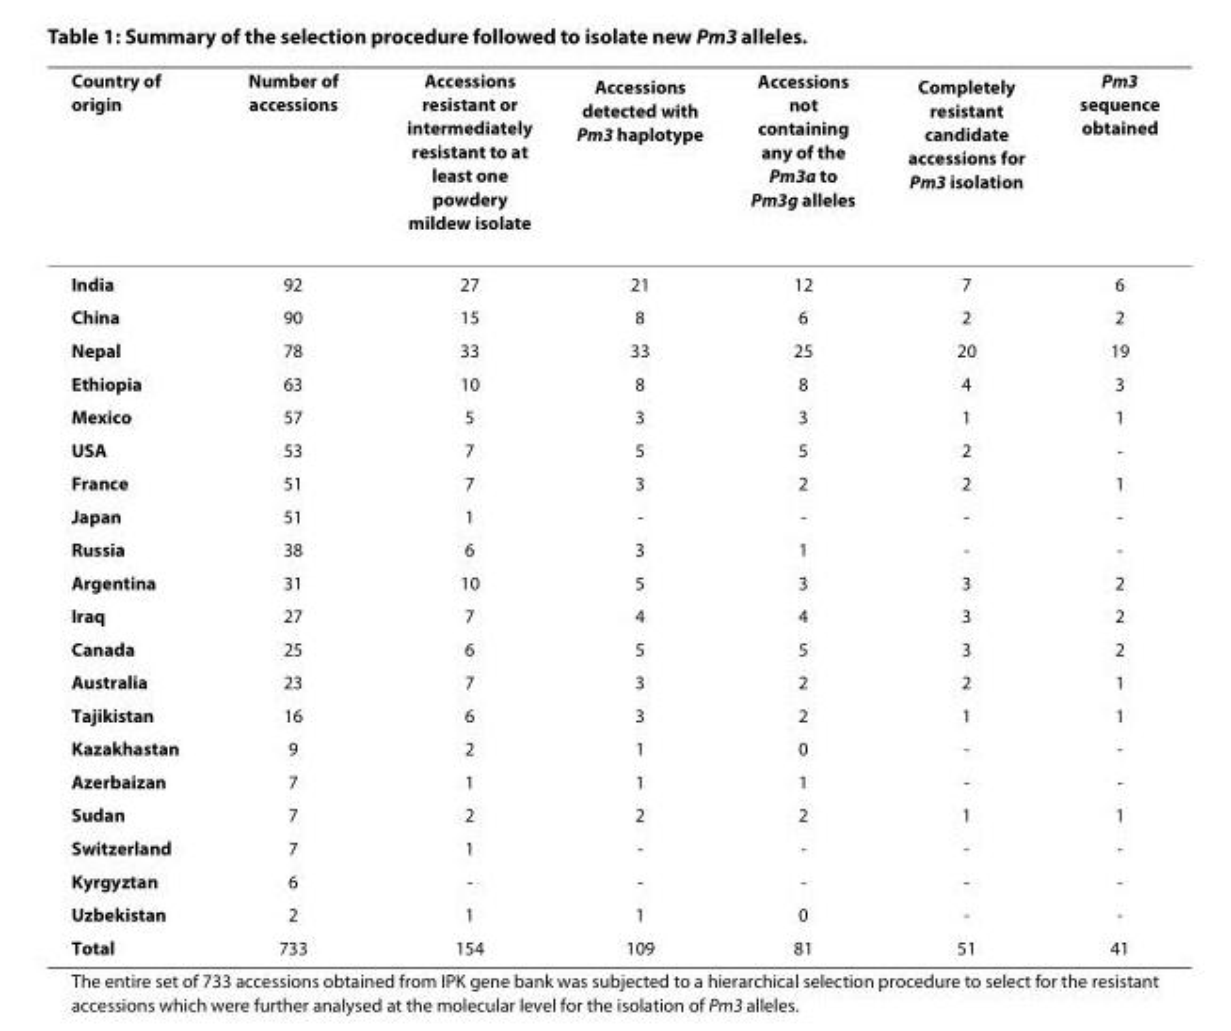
<table><thead><tr><td>Country of origin</td><td>Number of accessions</td><td>Accessions resistant or intermediately resistant to at least one powdery mildew isolate</td><td>Accessions detected with Pm3 haplotype</td><td>Accessions not containing any of the Pm3a to Pm3g alleles</td><td>Completely resistant candidate accessions for Pm3 isolation</td><td>Pm3 sequence obtained</td></tr></thead><tbody><tr><td>India</td><td>92</td><td>27</td><td>21</td><td>12</td><td>7</td><td>6</td></tr><tr><td>China</td><td>90</td><td>15</td><td>8</td><td>6</td><td>2</td><td>2</td></tr><tr><td>Nepal</td><td>78</td><td>33</td><td>33</td><td>25</td><td>20</td><td>19</td></tr><tr><td>Ethiopia</td><td>63</td><td>10</td><td>8</td><td>8</td><td>4</td><td>3</td></tr><tr><td>Mexico</td><td>57</td><td>5</td><td>3</td><td>3</td><td>1</td><td>1</td></tr><tr><td>USA</td><td>53</td><td>7</td><td>5</td><td>5</td><td>2</td><td>-</td></tr><tr><td>France</td><td>51</td><td>7</td><td>3</td><td>2</td><td>2</td><td>1</td></tr><tr><td>Japan</td><td>51</td><td>1</td><td>-</td><td>-</td><td>-</td><td>-</td></tr><tr><td>Russia</td><td>38</td><td>6</td><td>3</td><td>1</td><td>-</td><td>-</td></tr><tr><td>Argentina</td><td>31</td><td>10</td><td>5</td><td>3</td><td>3</td><td>2</td></tr><tr><td>Iraq</td><td>27</td><td>7</td><td>4</td><td>4</td><td>3</td><td>2</td></tr><tr><td>Canada</td><td>25</td><td>6</td><td>5</td><td>5</td><td>3</td><td>2</td></tr><tr><td>Australia</td><td>23</td><td>7</td><td>3</td><td>2</td><td>2</td><td>1</td></tr><tr><td>Tajikistan</td><td>16</td><td>6</td><td>3</td><td>2</td><td>1</td><td>1</td></tr><tr><td>Kazakhastan</td><td>9</td><td>2</td><td>1</td><td>0</td><td>-</td><td>-</td></tr><tr><td>Azerbaizan</td><td>7</td><td>1</td><td>1</td><td>1</td><td>-</td><td>-</td></tr><tr><td>Sudan</td><td>7</td><td>2</td><td>2</td><td>2</td><td>1</td><td>1</td></tr><tr><td>Switzerland</td><td>7</td><td>1</td><td>-</td><td>-</td><td>-</td><td>-</td></tr><tr><td>Kyrgyztan</td><td>6</td><td>-</td><td>-</td><td>-</td><td>-</td><td>-</td></tr><tr><td>Uzbekistan</td><td>2</td><td>1</td><td>1</td><td>0</td><td>-</td><td>-</td></tr><tr><td>Total</td><td>733</td><td>154</td><td>109</td><td>81</td><td>51</td><td>41</td></tr></tbody></table>